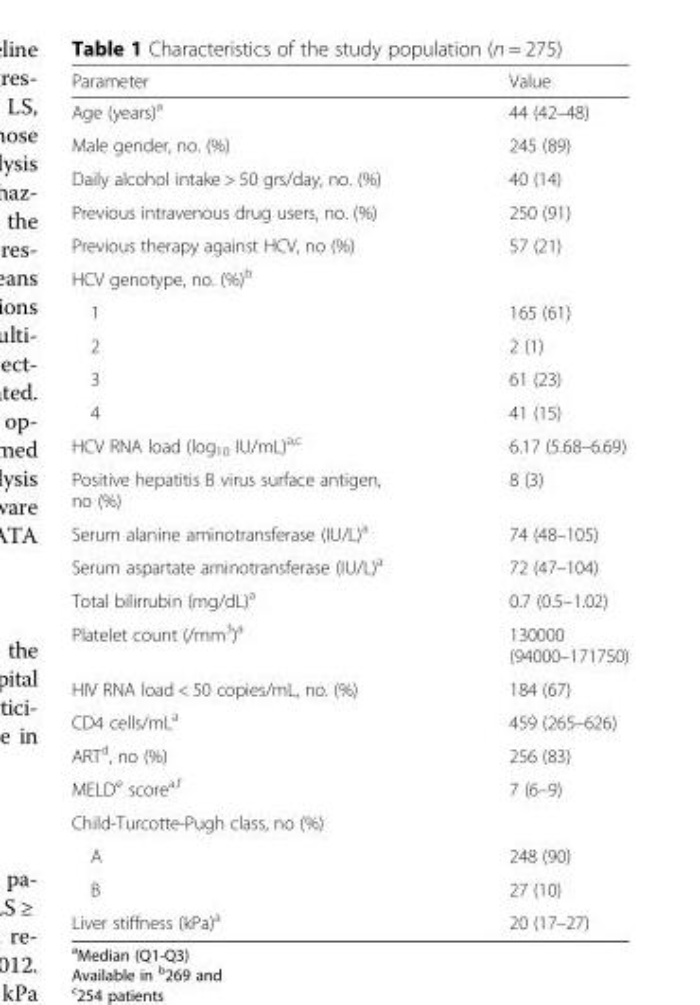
<table><thead><tr><td>Parameter</td><td>Value</td></tr></thead><tbody><tr><td>Age (years)<sup>a</sup></td><td>44 (42–48)</td></tr><tr><td>Male gender, no. (%)</td><td>245 (89)</td></tr><tr><td>Daily alcohol intake &gt; 50 grs/day, no. (%)</td><td>40 (14)</td></tr><tr><td>Previous intravenous drug users, no. (%)</td><td>250 (91)</td></tr><tr><td>Previous therapy against HCV, no (%)</td><td>57 (21)</td></tr><tr><td colspan="2">HCV genotype, no. (%)<sup>b</sup></td></tr><tr><td>1</td><td>165 (61)</td></tr><tr><td>2</td><td>2 (1)</td></tr><tr><td>3</td><td>61 (23)</td></tr><tr><td>4</td><td>41 (15)</td></tr><tr><td>HCV RNA load (log<sub>10</sub> IU/mL)<sup>a,c</sup></td><td>6.17 (5.68–6.69)</td></tr><tr><td>Positive hepatitis B virus surface antigen, no (%)</td><td>8 (3)</td></tr><tr><td>Serum alanine aminotransferase (IU/L)<sup>a</sup></td><td>74 (48–105)</td></tr><tr><td>Serum aspartate aminotransferase (IU/L)<sup>a</sup></td><td>72 (47–104)</td></tr><tr><td>Total bilirrubin (mg/dL)<sup>a</sup></td><td>0.7 (0.5–1.02)</td></tr><tr><td>Platelet count (/mm<sup>3</sup>)<sup>a</sup></td><td>130000 (94000–171750)</td></tr><tr><td>HIV RNA load &lt; 50 copies/mL, no. (%)</td><td>184 (67)</td></tr><tr><td>CD4 cells/mL<sup>a</sup></td><td>459 (265–626)</td></tr><tr><td>ART<sup>d</sup>, no (%)</td><td>256 (83)</td></tr><tr><td>MELD<sup>e</sup> score<sup>a,f</sup></td><td>7 (6–9)</td></tr><tr><td colspan="2">Child-Turcotte-Pugh class, no (%)</td></tr><tr><td>A</td><td>248 (90)</td></tr><tr><td>B</td><td>27 (10)</td></tr><tr><td>Liver stiffness (kPa)<sup>a</sup></td><td>20 (17–27)</td></tr></tbody></table>